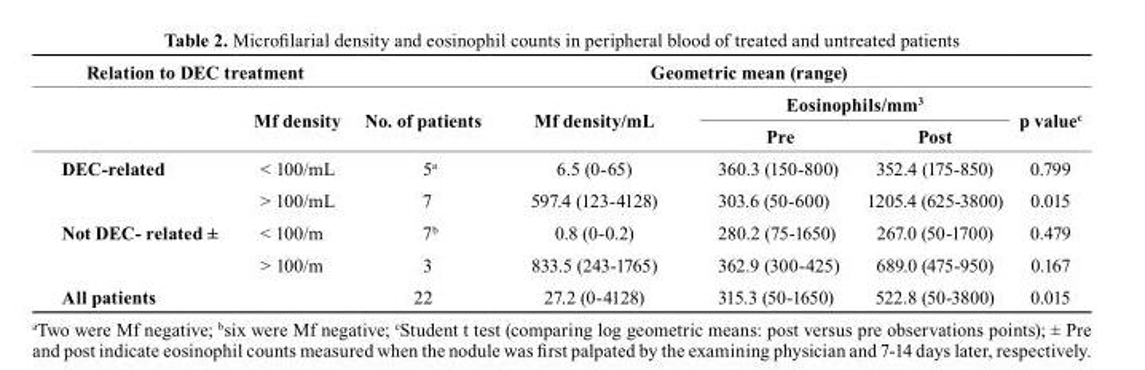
<table><thead><tr><td colspan="2">Relation to DEC treatment</td><td rowspan="3">No. of patients</td><td colspan="3">Geometric mean (range)</td><td rowspan="3">p value<sup>c</sup></td></tr><tr><td rowspan="2"></td><td rowspan="2">Mf density</td><td rowspan="2">Mf density/mL</td><td colspan="2">Eosinophils/mm<sup>3</sup></td></tr><tr><td>Pre</td><td>Post</td></tr></thead><tbody><tr><td rowspan="2">DEC-related</td><td>&lt; 100/mL</td><td>5<sup>a</sup></td><td>6.5 (0-65)</td><td>360.3 (150-800)</td><td>352.4 (175-850)</td><td>0.799</td></tr><tr><td>&gt; 100/mL</td><td>7</td><td>597.4 (123-4128)</td><td>303.6 (50-600)</td><td>1205.4 (625-3800)</td><td>0.015</td></tr><tr><td rowspan="2">Not DEC- related ±</td><td>&lt; 100/m</td><td>7<sup>b</sup></td><td>0.8 (0-0.2)</td><td>280.2 (75-1650)</td><td>267.0 (50-1700)</td><td>0.479</td></tr><tr><td>&gt; 100/m</td><td>3</td><td>833.5 (243-1765)</td><td>362.9 (300-425)</td><td>689.0 (475-950)</td><td>0.167</td></tr><tr><td>All patients</td><td></td><td>22</td><td>27.2 (0-4128)</td><td>315.3 (50-1650)</td><td>522.8 (50-3800)</td><td>0.015</td></tr></tbody></table>